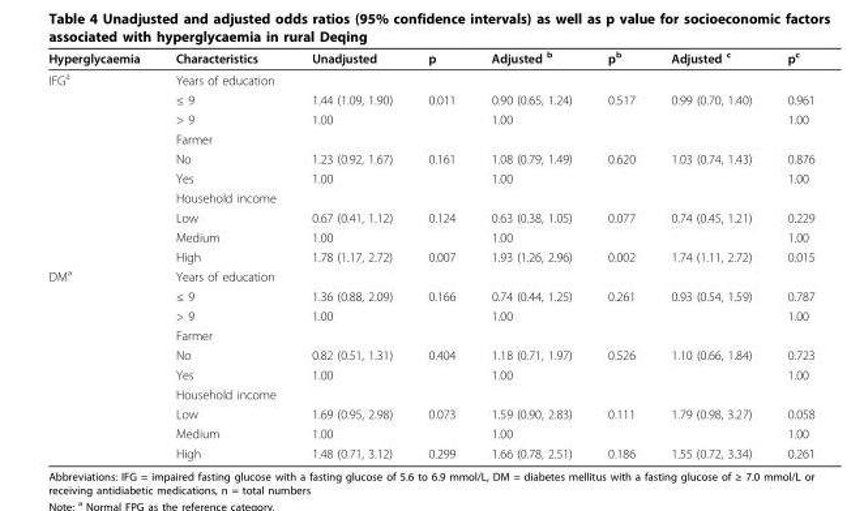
<table><thead><tr><td>Hyperglycaemia</td><td>Characteristics</td><td>Unadjusted</td><td>p</td><td>Adjusted <sup>b</sup></td><td>p<sup>b</sup></td><td>Adjusted <sup>c</sup></td><td>p<sup>c</sup></td></tr></thead><tbody><tr><td rowspan="10">IFG<sup>a</sup></td><td>Years of education</td><td></td><td></td><td></td><td></td><td></td><td></td></tr><tr><td>≤ 9</td><td>1.44 (1.09, 1.90)</td><td>0.011</td><td>0.90 (0.65, 1.24)</td><td>0.517</td><td>0.99 (0.70, 1.40)</td><td>0.961</td></tr><tr><td>&gt; 9</td><td>1.00</td><td></td><td>1.00</td><td></td><td></td><td>1.00</td></tr><tr><td>Farmer</td><td></td><td></td><td></td><td></td><td></td><td></td></tr><tr><td>No</td><td>1.23 (0.92, 1.67)</td><td>0.161</td><td>1.08 (0.79, 1.49)</td><td>0.620</td><td>1.03 (0.74, 1.43)</td><td>0.876</td></tr><tr><td>Yes</td><td>1.00</td><td></td><td>1.00</td><td></td><td></td><td>1.00</td></tr><tr><td>Household income</td><td></td><td></td><td></td><td></td><td></td><td></td></tr><tr><td>Low</td><td>0.67 (0.41, 1.12)</td><td>0.124</td><td>0.63 (0.38, 1.05)</td><td>0.077</td><td>0.74 (0.45, 1.21)</td><td>0.229</td></tr><tr><td>Medium</td><td>1.00</td><td></td><td>1.00</td><td></td><td></td><td>1.00</td></tr><tr><td>High</td><td>1.78 (1.17, 2.72)</td><td>0.007</td><td>1.93 (1.26, 2.96)</td><td>0.002</td><td>1.74 (1.11, 2.72)</td><td>0.015</td></tr><tr><td rowspan="10">DM<sup>a</sup></td><td>Years of education</td><td></td><td></td><td></td><td></td><td></td><td></td></tr><tr><td>≤ 9</td><td>1.36 (0.88, 2.09)</td><td>0.166</td><td>0.74 (0.44, 1.25)</td><td>0.261</td><td>0.93 (0.54, 1.59)</td><td>0.787</td></tr><tr><td>&gt; 9</td><td>1.00</td><td></td><td>1.00</td><td></td><td></td><td>1.00</td></tr><tr><td>Farmer</td><td></td><td></td><td></td><td></td><td></td><td></td></tr><tr><td>No</td><td>0.82 (0.51, 1.31)</td><td>0.404</td><td>1.18 (0.71, 1.97)</td><td>0.526</td><td>1.10 (0.66, 1.84)</td><td>0.723</td></tr><tr><td>Yes</td><td>1.00</td><td></td><td>1.00</td><td></td><td></td><td>1.00</td></tr><tr><td>Household income</td><td></td><td></td><td></td><td></td><td></td><td></td></tr><tr><td>Low</td><td>1.69 (0.95, 2.98)</td><td>0.073</td><td>1.59 (0.90, 2.83)</td><td>0.111</td><td>1.79 (0.98, 3.27)</td><td>0.058</td></tr><tr><td>Medium</td><td>1.00</td><td></td><td>1.00</td><td></td><td></td><td>1.00</td></tr><tr><td>High</td><td>1.48 (0.71, 3.12)</td><td>0.299</td><td>1.66 (0.78, 2.51)</td><td>0.186</td><td>1.55 (0.72, 3.34)</td><td>0.261</td></tr></tbody></table>